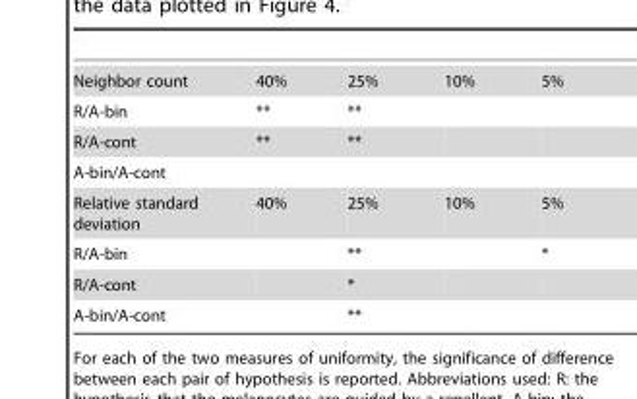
<table><tbody><tr><td>Neighbor count</td><td>40%</td><td>25%</td><td>10%</td><td>5%</td></tr><tr><td>R/A-bin</td><td>**</td><td>**</td><td></td><td></td></tr><tr><td>R/A-cont</td><td>**</td><td>**</td><td></td><td></td></tr><tr><td colspan="5">A-bin/A-cont</td></tr><tr><td>Relative standard deviation</td><td>40%</td><td>25%</td><td>10%</td><td>5%</td></tr><tr><td>R/A-bin</td><td></td><td>**</td><td></td><td>*</td></tr><tr><td>R/A-cont</td><td></td><td>*</td><td></td><td></td></tr><tr><td>A-bin/A-cont</td><td></td><td>**</td><td></td><td></td></tr></tbody></table>